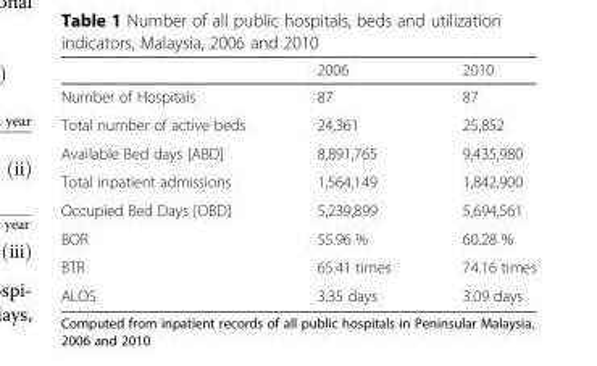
<table><thead><tr><td></td><td>2006</td><td>2010</td></tr></thead><tbody><tr><td>Number of Hospitals</td><td>87</td><td>87</td></tr><tr><td>Total number of active beds</td><td>24,361</td><td>25,852</td></tr><tr><td>Available Bed days [ABD]</td><td>8,891,765</td><td>9,435,980</td></tr><tr><td>Total inpatient admissions</td><td>1,564,149</td><td>1,842,900</td></tr><tr><td>Occupied Bed Days [OBD]</td><td>5,239,899</td><td>5,694,561</td></tr><tr><td>BOR</td><td>55.96 %</td><td>60.28 %</td></tr><tr><td>BTR</td><td>65.41 times</td><td>74.16 times</td></tr><tr><td>ALOS</td><td>3.35 days</td><td>3.09 days</td></tr></tbody></table>